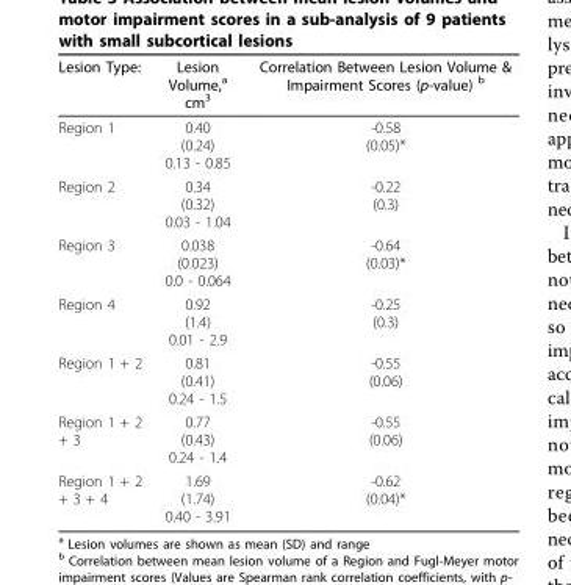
<table><thead><tr><td>Lesion Type:</td><td>Lesion Volume,<sup>a</sup> cm<sup>3</sup></td><td>Correlation Between Lesion Volume &amp; Impairment Scores (p-value) <sup>b</sup></td></tr></thead><tbody><tr><td>Region 1</td><td>0.40 (0.24) 0.13 - 0.85</td><td>-0.58 (0.05)*</td></tr><tr><td>Region 2</td><td>0.34 (0.32) 0.03 - 1.04</td><td>-0.22 (0.3)</td></tr><tr><td>Region 3</td><td>0.038 (0.023) 0.0 - 0.064</td><td>-0.64 (0.03)*</td></tr><tr><td>Region 4</td><td>0.92 (1.4) 0.01 - 2.9</td><td>-0.25 (0.3)</td></tr><tr><td>Region 1 + 2</td><td>0.81 (0.41) 0.24 - 1.5</td><td>-0.55 (0.06)</td></tr><tr><td>Region 1 + 2 + 3</td><td>0.77 (0.43) 0.24 - 1.4</td><td>-0.55 (0.06)</td></tr><tr><td>Region 1 + 2 + 3 + 4</td><td>1.69 (1.74) 0.40 - 3.91</td><td>-0.62 (0.04)*</td></tr></tbody></table>